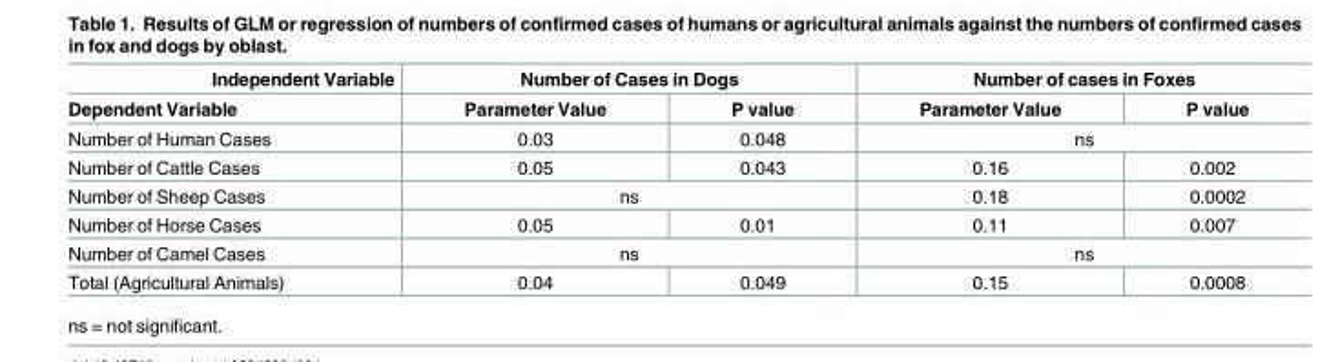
<table><thead><tr><td rowspan="2">Independent Variable Dependent Variable</td><td colspan="2">Number of Cases in Dogs</td><td colspan="2">Number of cases in Foxes</td></tr><tr><td>Parameter Value</td><td>P value</td><td>Parameter Value</td><td>P value</td></tr></thead><tbody><tr><td>Number of Human Cases</td><td>0.03</td><td>0.048</td><td colspan="2">ns</td></tr><tr><td>Number of Cattle Cases</td><td>0.05</td><td>0.043</td><td>0.16</td><td>0.002</td></tr><tr><td>Number of Sheep Cases</td><td colspan="2">ns</td><td>0.18</td><td>0.0002</td></tr><tr><td>Number of Horse Cases</td><td>0.05</td><td>0.01</td><td>0.11</td><td>0.007</td></tr><tr><td>Number of Camel Cases</td><td colspan="2">ns</td><td colspan="2">ns</td></tr><tr><td>Total (Agricultural Animals)</td><td>0.04</td><td>0.049</td><td>0.15</td><td>0.0008</td></tr></tbody></table>